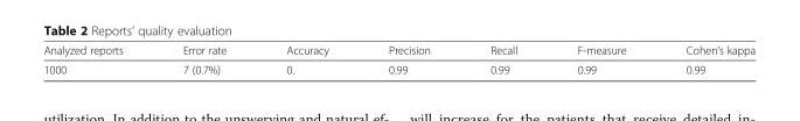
<table><thead><tr><td>Analyzed reports</td><td>Error rate</td><td>Accuracy</td><td>Precision</td><td>Recall</td><td>F-measure</td><td>Cohen’s kappa</td></tr></thead><tbody><tr><td>1000</td><td>7 (0.7%)</td><td>0.</td><td>0.99</td><td>0.99</td><td>0.99</td><td>0.99</td></tr></tbody></table>